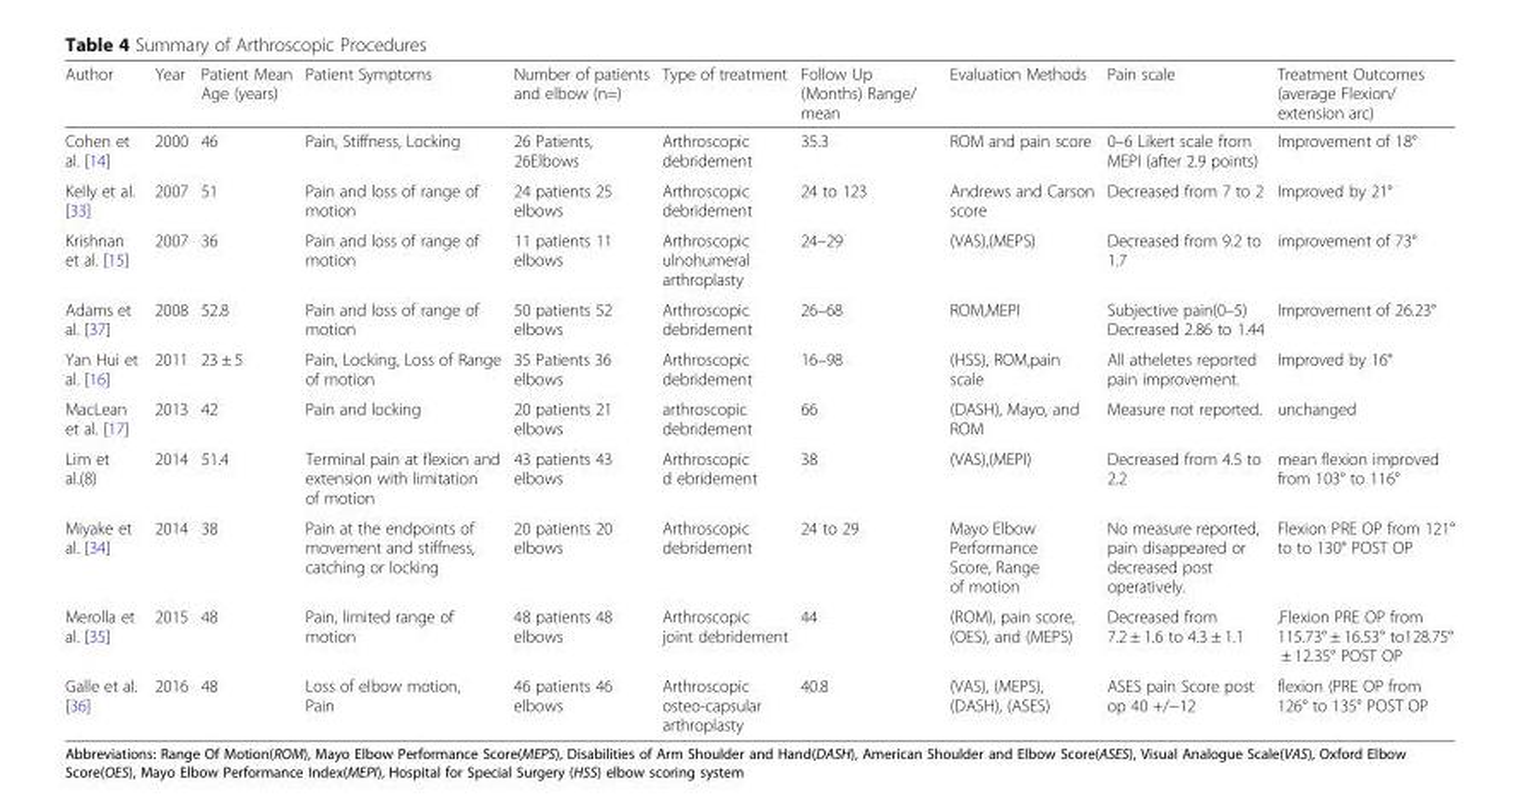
<table><thead><tr><td>Author</td><td>Year</td><td>Patient Mean Age (years)</td><td>Patient Symptoms</td><td>Number of patients and elbow (n=)</td><td>Type of treatment</td><td>Follow Up (Months) Range/ mean</td><td>Evaluation Methods</td><td>Pain scale</td><td>Treatment Outcomes (average Flexion/ extension arc)</td></tr></thead><tbody><tr><td>Cohen et al. [14]</td><td>2000</td><td>46</td><td>Pain, Stiffness, Locking</td><td>26 Patients, 26Elbows</td><td>Arthroscopic debridement</td><td>35.3</td><td>ROM and pain score</td><td>0–6 Likert scale from MEPI (after 2.9 points)</td><td>Improvement of 18°</td></tr><tr><td>Kelly et al. [33]</td><td>2007</td><td>51</td><td>Pain and loss of range of motion</td><td>24 patients 25 elbows</td><td>Arthroscopic debridement</td><td>24 to 123</td><td>Andrews and Carson score</td><td>Decreased from 7 to 2</td><td>Improved by 21°</td></tr><tr><td>Krishnan et al. [15]</td><td>2007</td><td>36</td><td>Pain and loss of range of motion</td><td>11 patients 11 elbows</td><td>Arthroscopic ulnohumeral arthroplasty</td><td>24–29</td><td>(VAS),(MEPS)</td><td>Decreased from 9.2 to 1.7</td><td>improvement of 73°</td></tr><tr><td>Adams et al. [37]</td><td>2008</td><td>52.8</td><td>Pain and loss of range of motion</td><td>50 patients 52 elbows</td><td>Arthroscopic debridement</td><td>26–68</td><td>ROM,MEPI</td><td>Subjective pain(0–5) Decreased 2.86 to 1.44</td><td>Improvement of 26.23°</td></tr><tr><td>Yan Hui et al. [16]</td><td>2011</td><td>23 ± 5</td><td>Pain, Locking, Loss of Range of motion</td><td>35 Patients 36 elbows</td><td>Arthroscopic debridement</td><td>16–98</td><td>(HSS), ROM,pain scale</td><td>All atheletes reported pain improvement.</td><td>Improved by 16°</td></tr><tr><td>MacLean et al. [17]</td><td>2013</td><td>42</td><td>Pain and locking</td><td>20 patients 21 elbows</td><td>arthroscopic debridement</td><td>66</td><td>(DASH), Mayo, and ROM</td><td>Measure not reported.</td><td>unchanged</td></tr><tr><td>Lim et al.(8)</td><td>2014</td><td>51.4</td><td>Terminal pain at flexion and extension with limitation of motion</td><td>43 patients 43 elbows</td><td>Arthroscopic d ebridement</td><td>38</td><td>(VAS),(MEPI)</td><td>Decreased from 4.5 to 2.2</td><td>mean flexion improved from 103° to 116°</td></tr><tr><td>Miyake et al. [34]</td><td>2014</td><td>38</td><td>Pain at the endpoints of movement and stiffness, catching or locking</td><td>20 patients 20 elbows</td><td>Arthroscopic debridement</td><td>24 to 29</td><td>Mayo Elbow Performance Score, Range of motion</td><td>No measure reported, pain disappeared or decreased post operatively.</td><td>Flexion PRE OP from 121° to to 130° POST OP</td></tr><tr><td>Merolla et al. [35]</td><td>2015</td><td>48</td><td>Pain, limited range of motion</td><td>48 patients 48 elbows</td><td>Arthroscopic joint debridement</td><td>44</td><td>(ROM), pain score, (OES), and (MEPS)</td><td>Decreased from 7.2 ± 1.6 to 4.3 ± 1.1</td><td>,Flexion PRE OP from 115.73° ± 16.53° to128.75° ± 12.35° POST OP</td></tr><tr><td>Galle et al. [36]</td><td>2016</td><td>48</td><td>Loss of elbow motion, Pain</td><td>46 patients 46 elbows</td><td>Arthroscopic osteo-capsular arthroplasty</td><td>40.8</td><td>(VAS), (MEPS), (DASH), (ASES)</td><td>ASES pain Score post op 40 +/−12</td><td>flexion (PRE OP from 126° to 135° POST OP</td></tr></tbody></table>